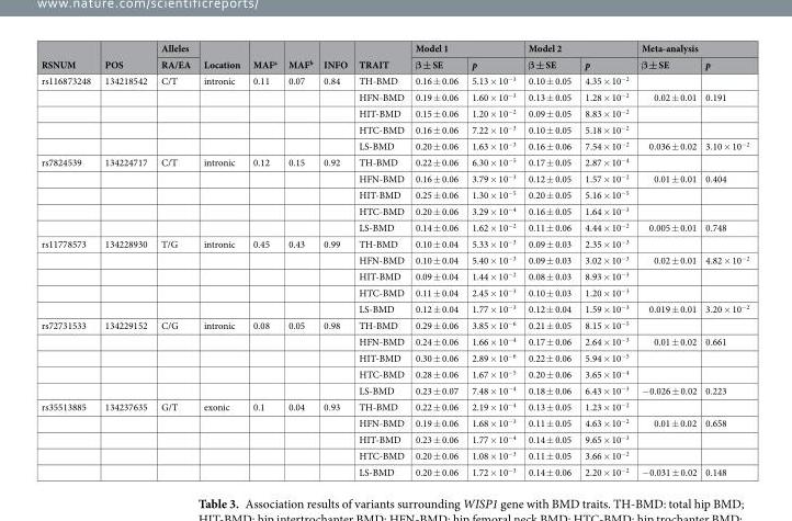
<table><thead><tr><td rowspan="2">RSNUM</td><td rowspan="2">POS</td><td rowspan="2">Alleles RA/EA</td><td rowspan="2">Location</td><td rowspan="2">MAF<sup>a</sup></td><td rowspan="2">MAF<sup>b</sup></td><td rowspan="2">INFO</td><td rowspan="2">TRAIT</td><td colspan="2">Model 1</td><td colspan="2">Model 2</td><td colspan="2">Meta-analysis</td></tr><tr><td>β ± SE</td><td>p</td><td>β ± SE</td><td>p</td><td>β ± SE</td><td>p</td></tr></thead><tbody><tr><td rowspan="5">rs116873248</td><td>134218542</td><td>C/T</td><td>intronic</td><td>0.11</td><td>0.07</td><td>0.84</td><td>TH-BMD</td><td>0.16 ± 0.06</td><td>5.13 × 10<sup>−3</sup></td><td>0.10 ± 0.05</td><td>4.35 × 10<sup>−2</sup></td><td></td><td></td></tr><tr><td></td><td></td><td></td><td></td><td></td><td></td><td>HFN-BMD</td><td>0.19 ± 0.06</td><td>1.60 × 10<sup>−3</sup></td><td>0.13 ± 0.05</td><td>1.28 × 10<sup>−2</sup></td><td>0.02 ± 0.01</td><td>0.191</td></tr><tr><td></td><td></td><td></td><td></td><td></td><td></td><td>HIT-BMD</td><td>0.15 ± 0.06</td><td>1.20 × 10<sup>−2</sup></td><td>0.09 ± 0.05</td><td>8.83 × 10<sup>−2</sup></td><td></td><td></td></tr><tr><td></td><td></td><td></td><td></td><td></td><td></td><td>HTC-BMD</td><td>0.16 ± 0.06</td><td>7.22 × 10<sup>−3</sup></td><td>0.10 ± 0.05</td><td>5.18 × 10<sup>−2</sup></td><td></td><td></td></tr><tr><td></td><td></td><td></td><td></td><td></td><td></td><td>LS-BMD</td><td>0.20 ± 0.06</td><td>1.63 × 10<sup>−3</sup></td><td>0.16 ± 0.06</td><td>7.54 × 10<sup>−2</sup></td><td>0.036 ± 0.02</td><td>3.10 × 10<sup>−2</sup></td></tr><tr><td rowspan="5">rs7824539</td><td>134224717</td><td>C/T</td><td>intronic</td><td>0.12</td><td>0.15</td><td>0.92</td><td>TH-BMD</td><td>0.22 ± 0.06</td><td>6.30 × 10<sup>−5</sup></td><td>0.17 ± 0.05</td><td>2.87 × 10<sup>−4</sup></td><td></td><td></td></tr><tr><td></td><td></td><td></td><td></td><td></td><td></td><td>HFN-BMD</td><td>0.16 ± 0.06</td><td>3.79 × 10<sup>−3</sup></td><td>0.12 ± 0.05</td><td>1.57 × 10<sup>−2</sup></td><td>0.01 ± 0.01</td><td>0.404</td></tr><tr><td></td><td></td><td></td><td></td><td></td><td></td><td>HIT-BMD</td><td>0.25 ± 0.06</td><td>1.30 × 10<sup>−5</sup></td><td>0.20 ± 0.05</td><td>5.16 × 10<sup>−5</sup></td><td></td><td></td></tr><tr><td></td><td></td><td></td><td></td><td></td><td></td><td>HTC-BMD</td><td>0.20 ± 0.06</td><td>3.29 × 10<sup>−4</sup></td><td>0.16 ± 0.05</td><td>1.64 × 10<sup>−3</sup></td><td></td><td></td></tr><tr><td></td><td></td><td></td><td></td><td></td><td></td><td>LS-BMD</td><td>0.14 ± 0.06</td><td>1.62 × 10<sup>−2</sup></td><td>0.11 ± 0.06</td><td>4.44 × 10<sup>−2</sup></td><td>0.005 ± 0.01</td><td>0.748</td></tr><tr><td rowspan="5">rs11778573</td><td>134228930</td><td>T/G</td><td>intronic</td><td>0.45</td><td>0.43</td><td>0.99</td><td>TH-BMD</td><td>0.10 ± 0.04</td><td>5.33 × 10<sup>−3</sup></td><td>0.09 ± 0.03</td><td>2.35 × 10<sup>−3</sup></td><td></td><td></td></tr><tr><td></td><td></td><td></td><td></td><td></td><td></td><td>HFN-BMD</td><td>0.10 ± 0.04</td><td>5.40 × 10<sup>−3</sup></td><td>0.09 ± 0.03</td><td>3.02 × 10<sup>−3</sup></td><td>0.02 ± 0.01</td><td>4.82 × 10<sup>−2</sup></td></tr><tr><td></td><td></td><td></td><td></td><td></td><td></td><td>HIT-BMD</td><td>0.09 ± 0.04</td><td>1.44 × 10<sup>−2</sup></td><td>0.08 ± 0.03</td><td>8.93 × 10<sup>−3</sup></td><td></td><td></td></tr><tr><td></td><td></td><td></td><td></td><td></td><td></td><td>HTC-BMD</td><td>0.11 ± 0.04</td><td>2.45 × 10<sup>−3</sup></td><td>0.10 ± 0.03</td><td>1.20 × 10<sup>−3</sup></td><td></td><td></td></tr><tr><td></td><td></td><td></td><td></td><td></td><td></td><td>LS-BMD</td><td>0.12 ± 0.04</td><td>1.77 × 10<sup>−3</sup></td><td>0.12 ± 0.04</td><td>1.59 × 10<sup>−3</sup></td><td>0.019 ± 0.01</td><td>3.20 × 10<sup>−2</sup></td></tr><tr><td rowspan="5">rs72731533</td><td>134229152</td><td>C/G</td><td>intronic</td><td>0.08</td><td>0.05</td><td>0.98</td><td>TH-BMD</td><td>0.29 ± 0.06</td><td>3.85 × 10<sup>−6</sup></td><td>0.21 ± 0.05</td><td>8.15 × 10<sup>−5</sup></td><td></td><td></td></tr><tr><td></td><td></td><td></td><td></td><td></td><td></td><td>HFN-BMD</td><td>0.24 ± 0.06</td><td>1.66 × 10<sup>−4</sup></td><td>0.17 ± 0.06</td><td>2.64 × 10<sup>−3</sup></td><td>0.01 ± 0.02</td><td>0.661</td></tr><tr><td></td><td></td><td></td><td></td><td></td><td></td><td>HIT-BMD</td><td>0.30 ± 0.06</td><td>2.89 × 10<sup>−6</sup></td><td>0.22 ± 0.06</td><td>5.94 × 10<sup>−5</sup></td><td></td><td></td></tr><tr><td></td><td></td><td></td><td></td><td></td><td></td><td>HTC-BMD</td><td>0.28 ± 0.06</td><td>1.67 × 10<sup>−5</sup></td><td>0.20 ± 0.06</td><td>3.65 × 10<sup>−4</sup></td><td></td><td></td></tr><tr><td></td><td></td><td></td><td></td><td></td><td></td><td>LS-BMD</td><td>0.23 ± 0.07</td><td>7.48 × 10<sup>−4</sup></td><td>0.18 ± 0.06</td><td>6.43 × 10<sup>−3</sup></td><td>−0.026 ± 0.02</td><td>0.223</td></tr><tr><td rowspan="5">rs35513885</td><td>134237635</td><td>G/T</td><td>exonic</td><td>0.1</td><td>0.04</td><td>0.93</td><td>TH-BMD</td><td>0.22 ± 0.06</td><td>2.19 × 10<sup>−4</sup></td><td>0.13 ± 0.05</td><td>1.23 × 10<sup>−2</sup></td><td></td><td></td></tr><tr><td></td><td></td><td></td><td></td><td></td><td></td><td>HFN-BMD</td><td>0.19 ± 0.06</td><td>1.68 × 10<sup>−3</sup></td><td>0.11 ± 0.05</td><td>4.63 × 10<sup>−2</sup></td><td>0.01 ± 0.02</td><td>0.658</td></tr><tr><td></td><td></td><td></td><td></td><td></td><td></td><td>HIT-BMD</td><td>0.23 ± 0.06</td><td>1.77 × 10<sup>−4</sup></td><td>0.14 ± 0.05</td><td>9.65 × 10<sup>−3</sup></td><td></td><td></td></tr><tr><td></td><td></td><td></td><td></td><td></td><td></td><td>HTC-BMD</td><td>0.20 ± 0.06</td><td>1.08 × 10<sup>−3</sup></td><td>0.11 ± 0.05</td><td>3.66 × 10<sup>−2</sup></td><td></td><td></td></tr><tr><td></td><td></td><td></td><td></td><td></td><td></td><td>LS-BMD</td><td>0.20 ± 0.06</td><td>1.72 × 10<sup>−3</sup></td><td>0.14 ± 0.06</td><td>2.20 × 10<sup>−2</sup></td><td>−0.031 ± 0.02</td><td>0.148</td></tr></tbody></table>